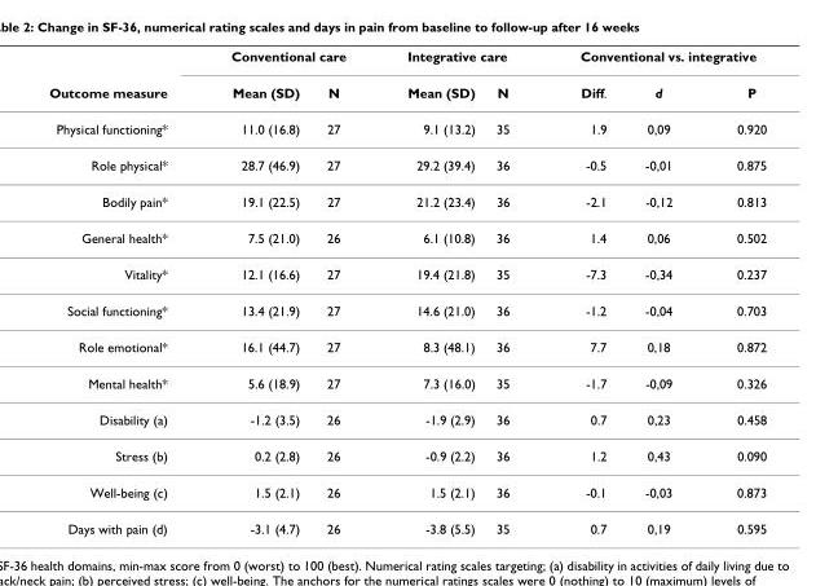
<table><thead><tr><td rowspan="2">Outcome measure</td><td colspan="2">Conventional care</td><td colspan="2">Integrative care</td><td colspan="3">Conventional vs. integrative</td></tr><tr><td>Mean (SD)</td><td>N</td><td>Mean (SD)</td><td>N</td><td>Diff.</td><td>d</td><td>P</td></tr></thead><tbody><tr><td>Physical functioning*</td><td>11.0 (16.8)</td><td>27</td><td>9.1 (13.2)</td><td>35</td><td>1.9</td><td>0,09</td><td>0.920</td></tr><tr><td>Role physical*</td><td>28.7 (46.9)</td><td>27</td><td>29.2 (39.4)</td><td>36</td><td>-0.5</td><td>-0,01</td><td>0.875</td></tr><tr><td>Bodily pain*</td><td>19.1 (22.5)</td><td>27</td><td>21.2 (23.4)</td><td>36</td><td>-2.1</td><td>-0,12</td><td>0.813</td></tr><tr><td>General health*</td><td>7.5 (21.0)</td><td>26</td><td>6.1 (10.8)</td><td>36</td><td>1.4</td><td>0,06</td><td>0.502</td></tr><tr><td>Vitality*</td><td>12.1 (16.6)</td><td>27</td><td>19.4 (21.8)</td><td>35</td><td>-7.3</td><td>-0,34</td><td>0.237</td></tr><tr><td>Social functioning*</td><td>13.4 (21.9)</td><td>27</td><td>14.6 (21.0)</td><td>36</td><td>-1.2</td><td>-0,04</td><td>0.703</td></tr><tr><td>Role emotional*</td><td>16.1 (44.7)</td><td>27</td><td>8.3 (48.1)</td><td>36</td><td>7.7</td><td>0,18</td><td>0.872</td></tr><tr><td>Mental health*</td><td>5.6 (18.9)</td><td>27</td><td>7.3 (16.0)</td><td>35</td><td>-1.7</td><td>-0,09</td><td>0.326</td></tr><tr><td>Disability (a)</td><td>-1.2 (3.5)</td><td>26</td><td>-1.9 (2.9)</td><td>36</td><td>0.7</td><td>0,23</td><td>0.458</td></tr><tr><td>Stress (b)</td><td>0.2 (2.8)</td><td>26</td><td>-0.9 (2.2)</td><td>36</td><td>1.2</td><td>0,43</td><td>0.090</td></tr><tr><td>Well-being (c)</td><td>1.5 (2.1)</td><td>26</td><td>1.5 (2.1)</td><td>36</td><td>-0.1</td><td>-0,03</td><td>0.873</td></tr><tr><td>Days with pain (d)</td><td>-3.1 (4.7)</td><td>26</td><td>-3.8 (5.5)</td><td>35</td><td>0.7</td><td>0,19</td><td>0.595</td></tr></tbody></table>